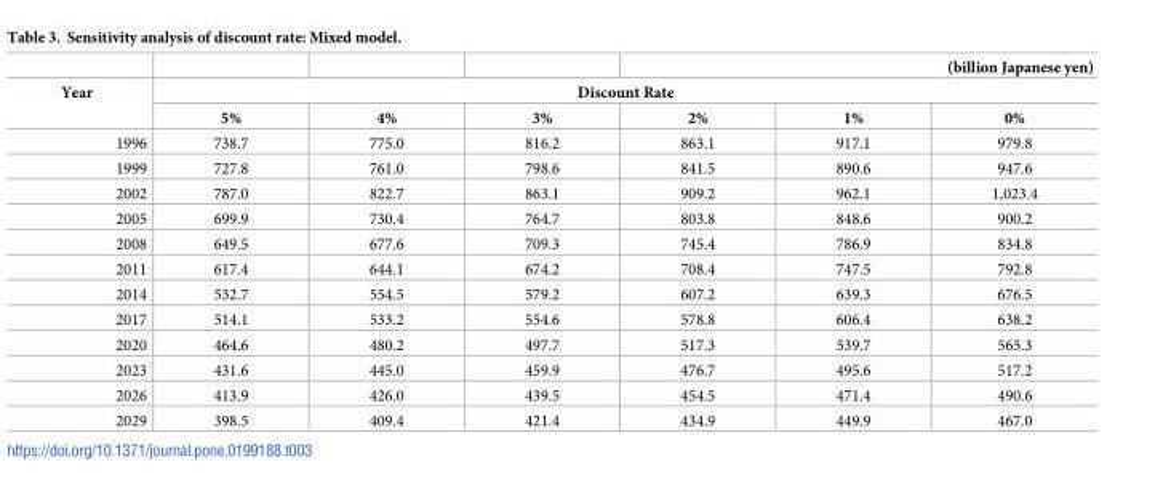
<table><thead><tr><td rowspan="3">Year</td><td></td><td></td><td></td><td colspan="3">(billion Japanese yen)</td></tr><tr><td colspan="6">Discount Rate</td></tr><tr><td>5%</td><td>4%</td><td>3%</td><td>2%</td><td>1%</td><td>0%</td></tr></thead><tbody><tr><td>1996</td><td>738.7</td><td>775.0</td><td>816.2</td><td>863.1</td><td>917.1</td><td>979.8</td></tr><tr><td>1999</td><td>727.8</td><td>761.0</td><td>798.6</td><td>841.5</td><td>890.6</td><td>947.6</td></tr><tr><td>2002</td><td>787.0</td><td>822.7</td><td>863.1</td><td>909.2</td><td>962.1</td><td>1,023.4</td></tr><tr><td>2005</td><td>699.9</td><td>730.4</td><td>764.7</td><td>803.8</td><td>848.6</td><td>900.2</td></tr><tr><td>2008</td><td>649.5</td><td>677.6</td><td>709.3</td><td>745.4</td><td>786.9</td><td>834.8</td></tr><tr><td>2011</td><td>617.4</td><td>644.1</td><td>674.2</td><td>708.4</td><td>747.5</td><td>792.8</td></tr><tr><td>2014</td><td>532.7</td><td>554.5</td><td>579.2</td><td>607.2</td><td>639.3</td><td>676.5</td></tr><tr><td>2017</td><td>514.1</td><td>533.2</td><td>554.6</td><td>578.8</td><td>606.4</td><td>638.2</td></tr><tr><td>2020</td><td>464.6</td><td>480.2</td><td>497.7</td><td>517.3</td><td>539.7</td><td>565.3</td></tr><tr><td>2023</td><td>431.6</td><td>445.0</td><td>459.9</td><td>476.7</td><td>495.6</td><td>517.2</td></tr><tr><td>2026</td><td>413.9</td><td>426.0</td><td>439.5</td><td>454.5</td><td>471.4</td><td>490.6</td></tr><tr><td>2029</td><td>398.5</td><td>409.4</td><td>421.4</td><td>434.9</td><td>449.9</td><td>467.0</td></tr></tbody></table>